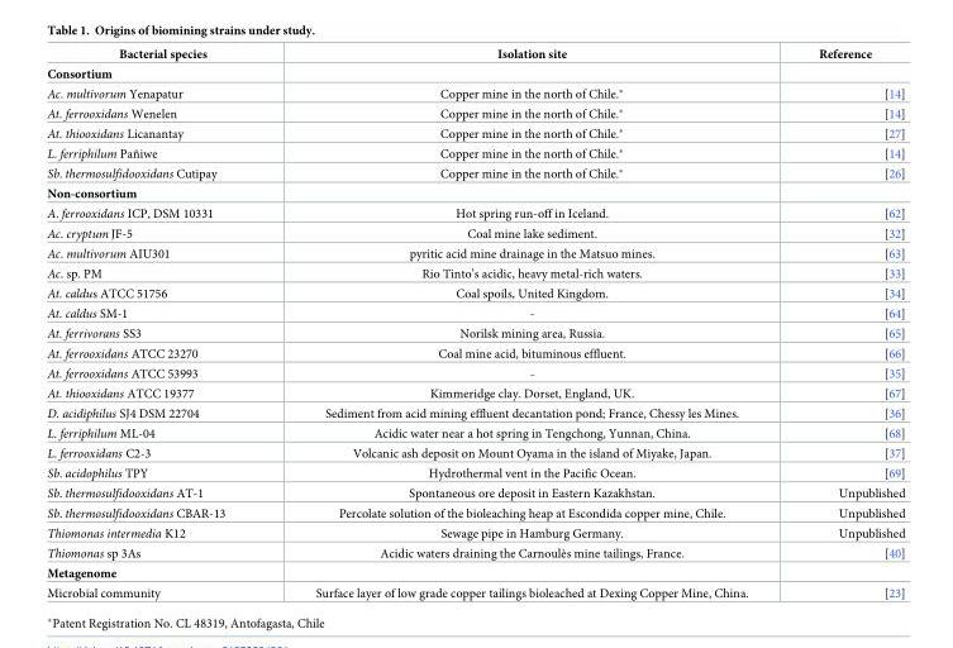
<table><thead><tr><td>Bacterial species</td><td>Isolation site</td><td>Reference</td></tr></thead><tbody><tr><td colspan="3">Consortium</td></tr><tr><td>Ac. multivorum Yenapatur</td><td>Copper mine in the north of Chile.*</td><td>[14]</td></tr><tr><td>At. ferrooxidans Wenelen</td><td>Copper mine in the north of Chile.*</td><td>[14]</td></tr><tr><td>At. thiooxidans Licanantay</td><td>Copper mine in the north of Chile.*</td><td>[27]</td></tr><tr><td>L. ferriphilum Pañiwe</td><td>Copper mine in the north of Chile.*</td><td>[14]</td></tr><tr><td>Sb. thermosulfidooxidans Cutipay</td><td>Copper mine in the north of Chile.*</td><td>[26]</td></tr><tr><td colspan="3">Non-consortium</td></tr><tr><td>A. ferrooxidans ICP, DSM 10331</td><td>Hot spring run-off in Iceland.</td><td>[62]</td></tr><tr><td>Ac. cryptum JF-5</td><td>Coal mine lake sediment.</td><td>[32]</td></tr><tr><td>Ac. multivorum AIU301</td><td>pyritic acid mine drainage in the Matsuo mines.</td><td>[63]</td></tr><tr><td>Ac. sp. PM</td><td>Rio Tinto’s acidic, heavy metal-rich waters.</td><td>[33]</td></tr><tr><td>At. caldus ATCC 51756</td><td>Coal spoils, United Kingdom.</td><td>[34]</td></tr><tr><td>At. caldus SM-1</td><td>-</td><td>[64]</td></tr><tr><td>At. ferrivorans SS3</td><td>Norilsk mining area, Russia.</td><td>[65]</td></tr><tr><td>At. ferrooxidans ATCC 23270</td><td>Coal mine acid, bituminous effluent.</td><td>[66]</td></tr><tr><td>At. ferrooxidans ATCC 53993</td><td>-</td><td>[35]</td></tr><tr><td>At. thiooxidans ATCC 19377</td><td>Kimmeridge clay. Dorset, England, UK.</td><td>[67]</td></tr><tr><td>D. acidiphilus SJ4 DSM 22704</td><td>Sediment from acid mining effluent decantation pond; France, Chessy les Mines.</td><td>[36]</td></tr><tr><td>L. ferriphilum ML-04</td><td>Acidic water near a hot spring in Tengchong, Yunnan, China.</td><td>[68]</td></tr><tr><td>L. ferrooxidans C2-3</td><td>Volcanic ash deposit on Mount Oyama in the island of Miyake, Japan.</td><td>[37]</td></tr><tr><td>Sb. acidophilus TPY</td><td>Hydrothermal vent in the Pacific Ocean.</td><td>[69]</td></tr><tr><td>Sb. thermosulfidooxidans AT-1</td><td>Spontaneous ore deposit in Eastern Kazakhstan.</td><td>Unpublished</td></tr><tr><td>Sb. thermosulfidooxidans CBAR-13</td><td>Percolate solution of the bioleaching heap at Escondida copper mine, Chile.</td><td>Unpublished</td></tr><tr><td>Thiomonas intermedia K12</td><td>Sewage pipe in Hamburg Germany.</td><td>Unpublished</td></tr><tr><td>Thiomonas sp 3As</td><td>Acidic waters draining the Carnoulès mine tailings, France.</td><td>[40]</td></tr><tr><td colspan="3">Metagenome</td></tr><tr><td>Microbial community</td><td>Surface layer of low grade copper tailings bioleached at Dexing Copper Mine, China.</td><td>[23]</td></tr></tbody></table>